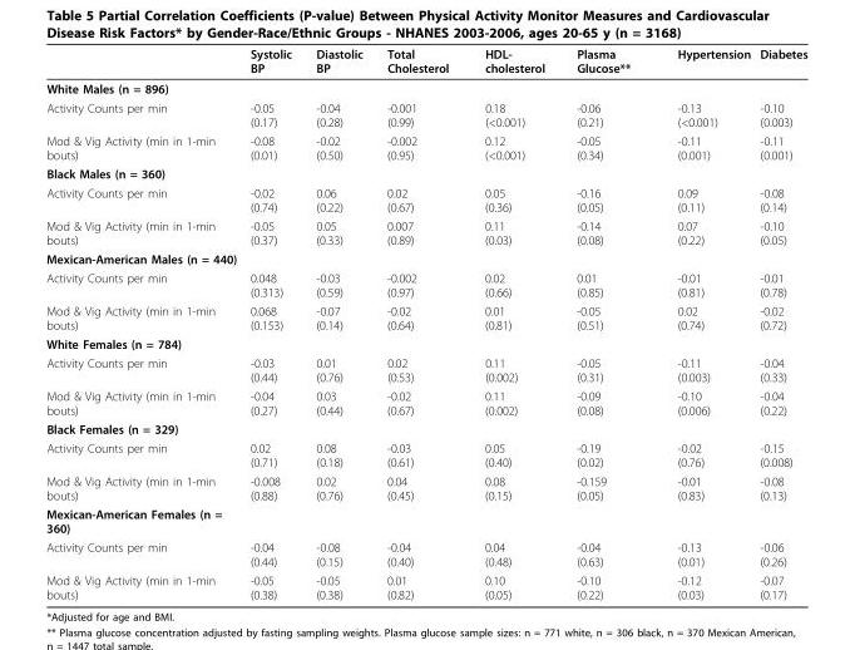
<table><thead><tr><td></td><td>Systolic BP</td><td>Diastolic BP</td><td>Total Cholesterol</td><td>HDL- cholesterol</td><td>Plasma Glucose**</td><td>Hypertension</td><td>Diabetes</td></tr></thead><tbody><tr><td colspan="8">White Males (n = 896)</td></tr><tr><td>Activity Counts per min</td><td>-0.05 (0.17)</td><td>-0.04 (0.28)</td><td>-0.001 (0.99)</td><td>0.18 (&lt;0.001)</td><td>-0.06 (0.21)</td><td>-0.13 (&lt;0.001)</td><td>-0.10 (0.003)</td></tr><tr><td>Mod &amp; Vig Activity (min in 1-min bouts)</td><td>-0.08 (0.01)</td><td>-0.02 (0.50)</td><td>-0.002 (0.95)</td><td>0.12 (&lt;0.001)</td><td>-0.05 (0.34)</td><td>-0.11 (0.001)</td><td>-0.11 (0.001)</td></tr><tr><td colspan="8">Black Males (n = 360)</td></tr><tr><td>Activity Counts per min</td><td>-0.02 (0.74)</td><td>0.06 (0.22)</td><td>0.02 (0.67)</td><td>0.05 (0.36)</td><td>-0.16 (0.05)</td><td>0.09 (0.11)</td><td>-0.08 (0.14)</td></tr><tr><td>Mod &amp; Vig Activity (min in 1-min bouts)</td><td>-0.05 (0.37)</td><td>0.05 (0.33)</td><td>0.007 (0.89)</td><td>0.11 (0.03)</td><td>-0.14 (0.08)</td><td>0.07 (0.22)</td><td>-0.10 (0.05)</td></tr><tr><td colspan="8">Mexican-American Males (n = 440)</td></tr><tr><td>Activity Counts per min</td><td>0.048 (0.313)</td><td>-0.03 (0.59)</td><td>-0.002 (0.97)</td><td>0.02 (0.66)</td><td>0.01 (0.85)</td><td>-0.01 (0.81)</td><td>-0.01 (0.78)</td></tr><tr><td>Mod &amp; Vig Activity (min in 1-min bouts)</td><td>0.068 (0.153)</td><td>-0.07 (0.14)</td><td>-0.02 (0.64)</td><td>0.01 (0.81)</td><td>-0.05 (0.51)</td><td>0.02 (0.74)</td><td>-0.02 (0.72)</td></tr><tr><td colspan="8">White Females (n = 784)</td></tr><tr><td>Activity Counts per min</td><td>-0.03 (0.44)</td><td>0.01 (0.76)</td><td>0.02 (0.53)</td><td>0.11 (0.002)</td><td>-0.05 (0.31)</td><td>-0.11 (0.003)</td><td>-0.04 (0.33)</td></tr><tr><td>Mod &amp; Vig Activity (min in 1-min bouts)</td><td>-0.04 (0.27)</td><td>0.03 (0.44)</td><td>-0.02 (0.67)</td><td>0.11 (0.002)</td><td>-0.09 (0.08)</td><td>-0.10 (0.006)</td><td>-0.04 (0.22)</td></tr><tr><td colspan="8">Black Females (n = 329)</td></tr><tr><td>Activity Counts per min</td><td>0.02 (0.71)</td><td>0.08 (0.18)</td><td>-0.03 (0.61)</td><td>0.05 (0.40)</td><td>-0.19 (0.02)</td><td>-0.02 (0.76)</td><td>-0.15 (0.008)</td></tr><tr><td>Mod &amp; Vig Activity (min in 1-min bouts)</td><td>-0.008 (0.88)</td><td>0.02 (0.76)</td><td>0.04 (0.45)</td><td>0.08 (0.15)</td><td>-0.159 (0.05)</td><td>-0.01 (0.83)</td><td>-0.08 (0.13)</td></tr><tr><td colspan="8">Mexican-American Females (n = 360)</td></tr><tr><td>Activity Counts per min</td><td>-0.04 (0.44)</td><td>-0.08 (0.15)</td><td>-0.04 (0.40)</td><td>0.04 (0.48)</td><td>-0.04 (0.63)</td><td>-0.13 (0.01)</td><td>-0.06 (0.26)</td></tr><tr><td>Mod &amp; Vig Activity (min in 1-min bouts)</td><td>-0.05 (0.38)</td><td>-0.05 (0.38)</td><td>0.01 (0.82)</td><td>0.10 (0.05)</td><td>-0.10 (0.22)</td><td>-0.12 (0.03)</td><td>-0.07 (0.17)</td></tr></tbody></table>